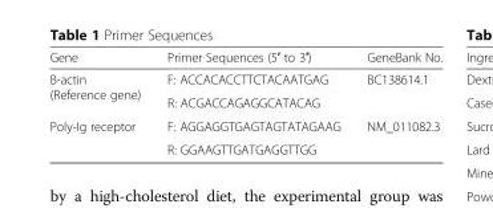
<table><thead><tr><td>Gene</td><td>Primer Sequences (5′ to 3′)</td><td>GeneBank No.</td></tr></thead><tbody><tr><td rowspan="2">B-actin (Reference gene)</td><td>F: ACCACACCTTCTACAATGAG</td><td rowspan="2">BC138614.1</td></tr><tr><td>R: ACGACCAGAGGCATACAG</td></tr><tr><td rowspan="2">Poly-Ig receptor</td><td>F: AGGAGGTGAGTAGTATAGAAG</td><td rowspan="2">NM_011082.3</td></tr><tr><td>R: GGAAGTTGATGAGGTTGG</td></tr></tbody></table>